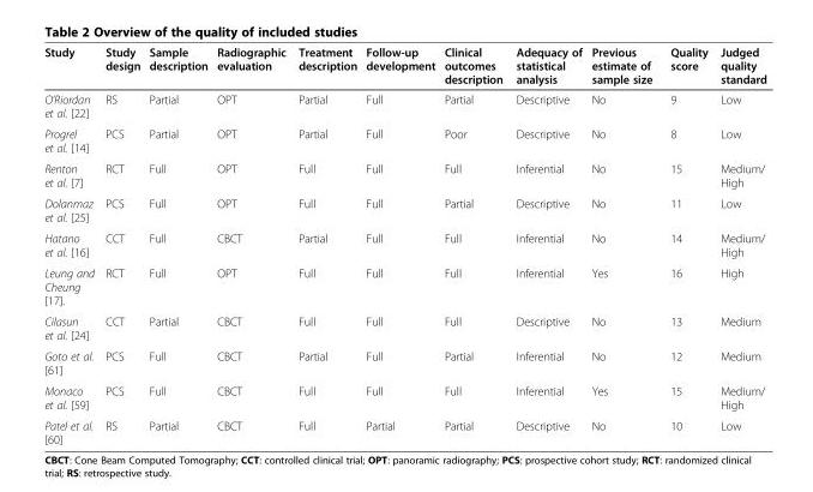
<table><thead><tr><td>Study</td><td>Study design</td><td>Sample description</td><td>Radiographic evaluation</td><td>Treatment description</td><td>Follow-up development</td><td>Clinical outcomes description</td><td>Adequacy of statistical analysis</td><td>Previous estimate of sample size</td><td>Quality score</td><td>Judged quality standard</td></tr></thead><tbody><tr><td>O’Riordan et al. [22]</td><td>RS</td><td>Partial</td><td>OPT</td><td>Partial</td><td>Full</td><td>Partial</td><td>Descriptive</td><td>No</td><td>9</td><td>Low</td></tr><tr><td>Progrel et al. [14]</td><td>PCS</td><td>Partial</td><td>OPT</td><td>Partial</td><td>Full</td><td>Poor</td><td>Descriptive</td><td>No</td><td>8</td><td>Low</td></tr><tr><td>Renton et al. [7]</td><td>RCT</td><td>Full</td><td>OPT</td><td>Full</td><td>Full</td><td>Full</td><td>Inferential</td><td>No</td><td>15</td><td>Medium/ High</td></tr><tr><td>Dolanmaz et al. [25]</td><td>PCS</td><td>Full</td><td>OPT</td><td>Full</td><td>Full</td><td>Partial</td><td>Descriptive</td><td>No</td><td>11</td><td>Low</td></tr><tr><td>Hatano et al. [16]</td><td>CCT</td><td>Full</td><td>CBCT</td><td>Partial</td><td>Full</td><td>Full</td><td>Inferential</td><td>No</td><td>14</td><td>Medium/ High</td></tr><tr><td>Leung and Cheung [17].</td><td>RCT</td><td>Full</td><td>OPT</td><td>Full</td><td>Full</td><td>Full</td><td>Inferential</td><td>Yes</td><td>16</td><td>High</td></tr><tr><td>Cilasun et al. [24]</td><td>CCT</td><td>Partial</td><td>CBCT</td><td>Full</td><td>Full</td><td>Full</td><td>Descriptive</td><td>No</td><td>13</td><td>Medium</td></tr><tr><td>Goto et al. [61]</td><td>PCS</td><td>Full</td><td>CBCT</td><td>Partial</td><td>Full</td><td>Partial</td><td>Inferential</td><td>No</td><td>12</td><td>Medium</td></tr><tr><td>Monaco et al. [59]</td><td>PCS</td><td>Full</td><td>CBCT</td><td>Full</td><td>Full</td><td>Full</td><td>Inferential</td><td>Yes</td><td>15</td><td>Medium/ High</td></tr><tr><td>Patel et al. [60]</td><td>RS</td><td>Partial</td><td>CBCT</td><td>Full</td><td>Partial</td><td>Partial</td><td>Descriptive</td><td>No</td><td>10</td><td>Low</td></tr></tbody></table>